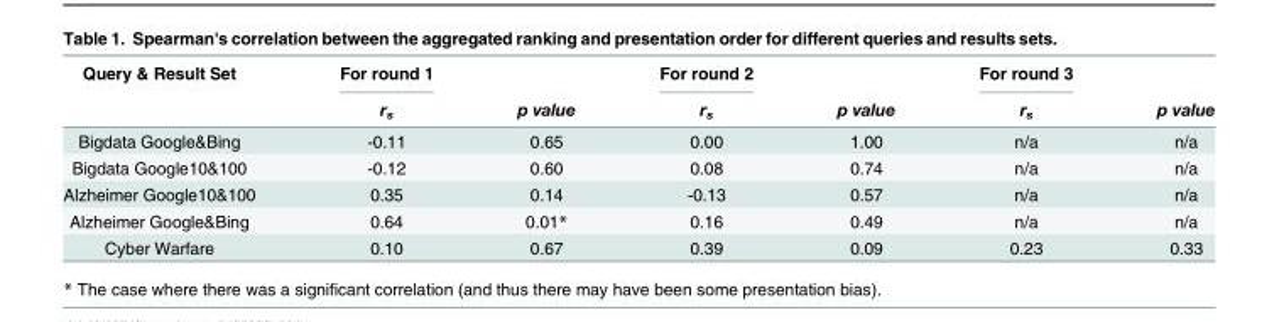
<table><thead><tr><td rowspan="2">Query &amp; Result Set</td><td rowspan="2">For round 1 r<sub>s</sub></td><td rowspan="2">p value</td><td rowspan="2">For round 2 r<sub>s</sub></td><td rowspan="2">p value</td><td rowspan="2">For round 3 r<sub>s</sub></td><td rowspan="2">p value</td></tr><tr></tr></thead><tbody><tr><td>Bigdata Google&amp;Bing</td><td>-0.11</td><td>0.65</td><td>0.00</td><td>1.00</td><td>n/a</td><td>n/a</td></tr><tr><td>Bigdata Google10&amp;100</td><td>-0.12</td><td>0.60</td><td>0.08</td><td>0.74</td><td>n/a</td><td>n/a</td></tr><tr><td>Alzheimer Google10&amp;100</td><td>0.35</td><td>0.14</td><td>-0.13</td><td>0.57</td><td>n/a</td><td>n/a</td></tr><tr><td>Alzheimer Google&amp;Bing</td><td>0.64</td><td>0.01*</td><td>0.16</td><td>0.49</td><td>n/a</td><td>n/a</td></tr><tr><td>Cyber Warfare</td><td>0.10</td><td>0.67</td><td>0.39</td><td>0.09</td><td>0.23</td><td>0.33</td></tr></tbody></table>